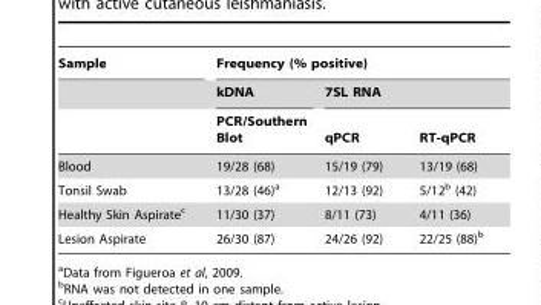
<table><thead><tr><td rowspan="3">Sample</td><td colspan="3">Frequency (% positive)</td></tr><tr><td rowspan="2">kDNA PCR/Southern Blot</td><td colspan="2">7SL RNA</td></tr><tr><td>qPCR</td><td>RT-qPCR</td></tr></thead><tbody><tr><td>Blood</td><td>19/28 (68)</td><td>15/19 (79)</td><td>13/19 (68)</td></tr><tr><td>Tonsil Swab</td><td>13/28 (46)<sup>a</sup></td><td>12/13 (92)</td><td>5/12<sup>b</sup> (42)</td></tr><tr><td>Healthy Skin Aspirate<sup>c</sup></td><td>11/30 (37)</td><td>8/11 (73)</td><td>4/11 (36)</td></tr><tr><td>Lesion Aspirate</td><td>26/30 (87)</td><td>24/26 (92)</td><td>22/25 (88)<sup>b</sup></td></tr></tbody></table>